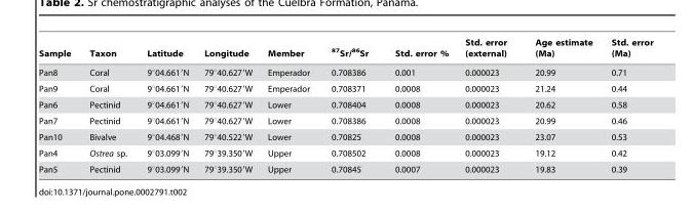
<table><thead><tr><td>Sample</td><td>Taxon</td><td>Latitude</td><td>Longitude</td><td>Member</td><td><sup>87</sup>Sr/<sup>86</sup>Sr</td><td>Std. error %</td><td>Std. error (external)</td><td>Age estimate (Ma)</td><td>Std. error (Ma)</td></tr></thead><tbody><tr><td>Pan8</td><td>Coral</td><td>9°04.661′N</td><td>79°40.627′W</td><td>Emperador</td><td>0.708386</td><td>0.001</td><td>0.000023</td><td>20.99</td><td>0.71</td></tr><tr><td>Pan9</td><td>Coral</td><td>9°04.661′N</td><td>79°40.627′W</td><td>Emperador</td><td>0.708371</td><td>0.0008</td><td>0.000023</td><td>21.24</td><td>0.44</td></tr><tr><td>Pan6</td><td>Pectinid</td><td>9°04.661′N</td><td>79°40.627′W</td><td>Lower</td><td>0.708404</td><td>0.0008</td><td>0.000023</td><td>20.62</td><td>0.58</td></tr><tr><td>Pan7</td><td>Pectinid</td><td>9°04.661′N</td><td>79°40.627′W</td><td>Lower</td><td>0.708386</td><td>0.0008</td><td>0.000023</td><td>20.99</td><td>0.46</td></tr><tr><td>Pan10</td><td>Bivalve</td><td>9°04.468′N</td><td>79°40.522′W</td><td>Lower</td><td>0.70825</td><td>0.0008</td><td>0.000023</td><td>23.07</td><td>0.53</td></tr><tr><td>Pan4</td><td>Ostrea sp.</td><td>9°03.099′N</td><td>79°39.350′W</td><td>Upper</td><td>0.708502</td><td>0.0008</td><td>0.000023</td><td>19.12</td><td>0.42</td></tr><tr><td>Pan5</td><td>Pectinid</td><td>9°03.099′N</td><td>79°39.350′W</td><td>Upper</td><td>0.70845</td><td>0.0007</td><td>0.000023</td><td>19.83</td><td>0.39</td></tr></tbody></table>